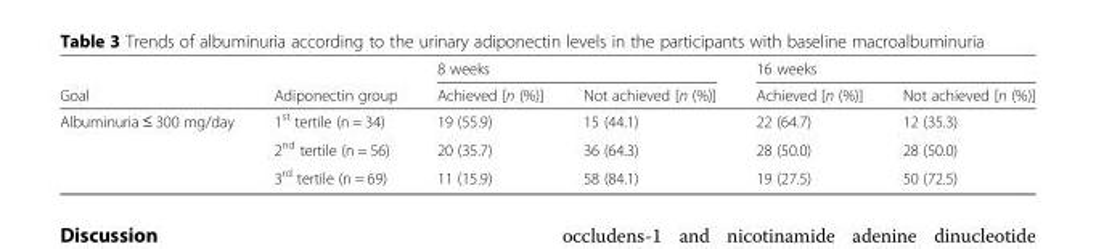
<table><thead><tr><td rowspan="2">Goal</td><td rowspan="2">Adiponectin group</td><td colspan="2">8 weeks</td><td colspan="2">16 weeks</td></tr><tr><td>Achieved [n (%)]</td><td>Not achieved [n (%)]</td><td>Achieved [n (%)]</td><td>Not achieved [n (%)]</td></tr></thead><tbody><tr><td rowspan="3">Albuminuria ≤ 300 mg/day</td><td>1<sup>st</sup> tertile (n = 34)</td><td>19 (55.9)</td><td>15 (44.1)</td><td>22 (64.7)</td><td>12 (35.3)</td></tr><tr><td>2<sup>nd</sup> tertile (n = 56)</td><td>20 (35.7)</td><td>36 (64.3)</td><td>28 (50.0)</td><td>28 (50.0)</td></tr><tr><td>3<sup>rd</sup> tertile (n = 69)</td><td>11 (15.9)</td><td>58 (84.1)</td><td>19 (27.5)</td><td>50 (72.5)</td></tr></tbody></table>